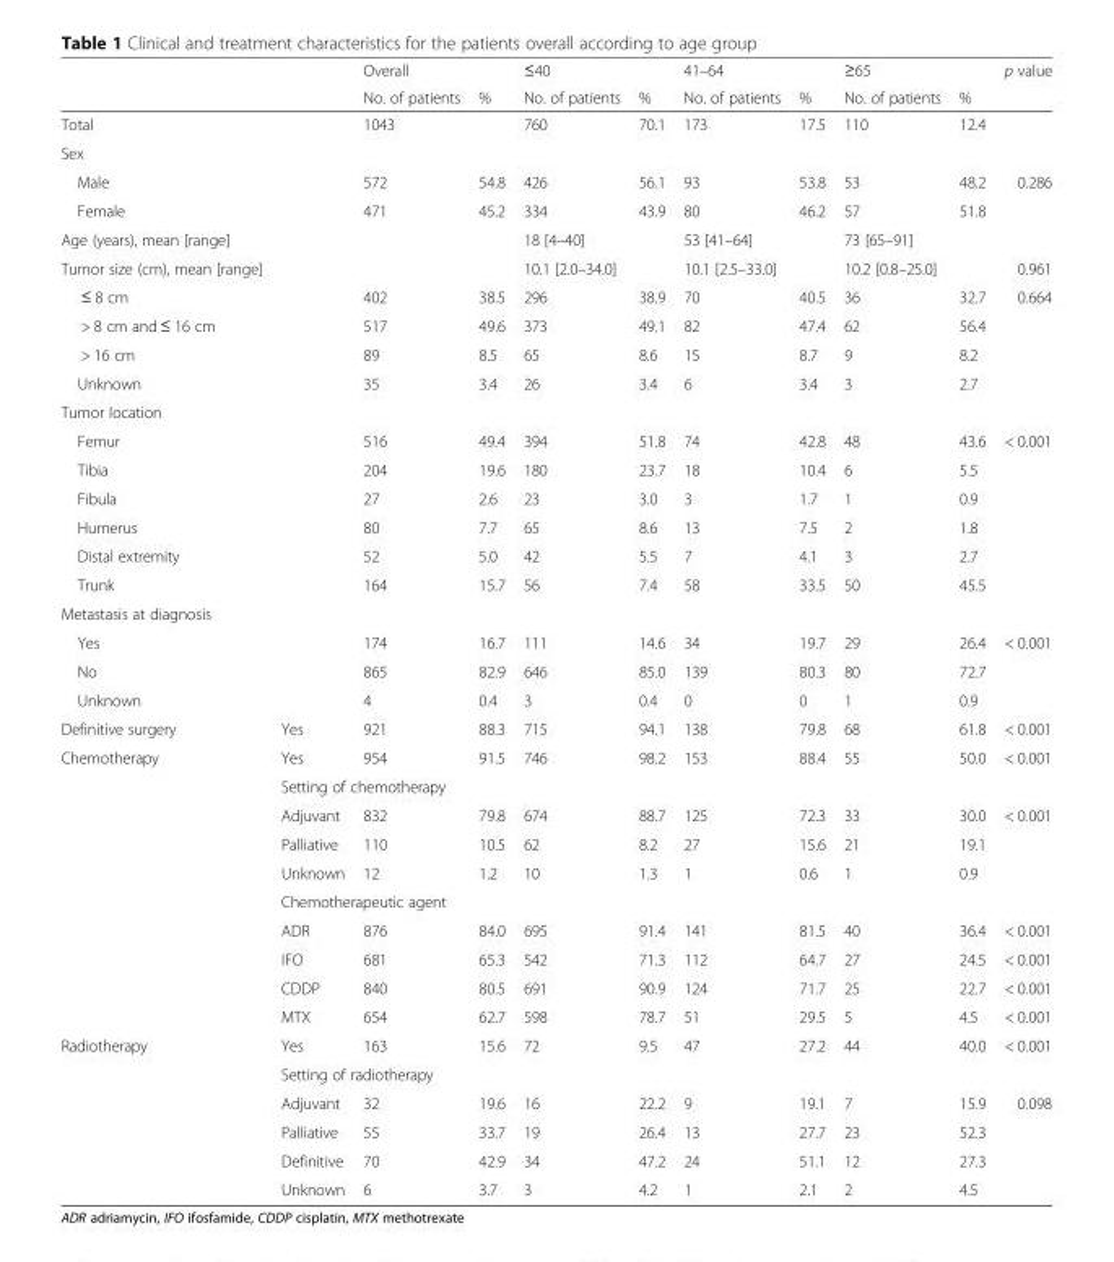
<table><thead><tr><td rowspan="2"></td><td rowspan="2"></td><td rowspan="2">Overall No. of patients</td><td rowspan="2">%</td><td rowspan="2">≤40 No. of patients</td><td rowspan="2">%</td><td rowspan="2">41–64 No. of patients</td><td rowspan="2">%</td><td rowspan="2">≥65 No. of patients</td><td rowspan="2">%</td><td rowspan="2">p value</td></tr><tr></tr></thead><tbody><tr><td>Total</td><td></td><td>1043</td><td></td><td>760</td><td>70.1</td><td>173</td><td>17.5</td><td>110</td><td>12.4</td><td></td></tr><tr><td colspan="11">Sex</td></tr><tr><td>Male</td><td></td><td>572</td><td>54.8</td><td>426</td><td>56.1</td><td>93</td><td>53.8</td><td>53</td><td>48.2</td><td>0.286</td></tr><tr><td>Female</td><td></td><td>471</td><td>45.2</td><td>334</td><td>43.9</td><td>80</td><td>46.2</td><td>57</td><td>51.8</td><td></td></tr><tr><td>Age (years), mean [range]</td><td></td><td></td><td></td><td>18 [4–40]</td><td></td><td>53 [41–64]</td><td></td><td>73 [65–91]</td><td></td><td></td></tr><tr><td>Tumor size (cm), mean [range]</td><td></td><td></td><td></td><td>10.1 [2.0–34.0]</td><td></td><td>10.1 [2.5–33.0]</td><td></td><td>10.2 [0.8–25.0]</td><td></td><td>0.961</td></tr><tr><td>≤ 8 cm</td><td></td><td>402</td><td>38.5</td><td>296</td><td>38.9</td><td>70</td><td>40.5</td><td>36</td><td>32.7</td><td>0.664</td></tr><tr><td>&gt; 8 cm and ≤ 16 cm</td><td></td><td>517</td><td>49.6</td><td>373</td><td>49.1</td><td>82</td><td>47.4</td><td>62</td><td>56.4</td><td></td></tr><tr><td>&gt; 16 cm</td><td></td><td>89</td><td>8.5</td><td>65</td><td>8.6</td><td>15</td><td>8.7</td><td>9</td><td>8.2</td><td></td></tr><tr><td>Unknown</td><td></td><td>35</td><td>3.4</td><td>26</td><td>3.4</td><td>6</td><td>3.4</td><td>3</td><td>2.7</td><td></td></tr><tr><td colspan="11">Tumor location</td></tr><tr><td>Femur</td><td></td><td>516</td><td>49.4</td><td>394</td><td>51.8</td><td>74</td><td>42.8</td><td>48</td><td>43.6</td><td>&lt; 0.001</td></tr><tr><td>Tibia</td><td></td><td>204</td><td>19.6</td><td>180</td><td>23.7</td><td>18</td><td>10.4</td><td>6</td><td>5.5</td><td></td></tr><tr><td>Fibula</td><td></td><td>27</td><td>2.6</td><td>23</td><td>3.0</td><td>3</td><td>1.7</td><td>1</td><td>0.9</td><td></td></tr><tr><td>Humerus</td><td></td><td>80</td><td>7.7</td><td>65</td><td>8.6</td><td>13</td><td>7.5</td><td>2</td><td>1.8</td><td></td></tr><tr><td>Distal extremity</td><td></td><td>52</td><td>5.0</td><td>42</td><td>5.5</td><td>7</td><td>4.1</td><td>3</td><td>2.7</td><td></td></tr><tr><td>Trunk</td><td></td><td>164</td><td>15.7</td><td>56</td><td>7.4</td><td>58</td><td>33.5</td><td>50</td><td>45.5</td><td></td></tr><tr><td colspan="11">Metastasis at diagnosis</td></tr><tr><td>Yes</td><td></td><td>174</td><td>16.7</td><td>111</td><td>14.6</td><td>34</td><td>19.7</td><td>29</td><td>26.4</td><td>&lt; 0.001</td></tr><tr><td>No</td><td></td><td>865</td><td>82.9</td><td>646</td><td>85.0</td><td>139</td><td>80.3</td><td>80</td><td>72.7</td><td></td></tr><tr><td>Unknown</td><td></td><td>4</td><td>0.4</td><td>3</td><td>0.4</td><td>0</td><td>0</td><td>1</td><td>0.9</td><td></td></tr><tr><td>Definitive surgery</td><td>Yes</td><td>921</td><td>88.3</td><td>715</td><td>94.1</td><td>138</td><td>79.8</td><td>68</td><td>61.8</td><td>&lt; 0.001</td></tr><tr><td rowspan="10">Chemotherapy</td><td>Yes</td><td>954</td><td>91.5</td><td>746</td><td>98.2</td><td>153</td><td>88.4</td><td>55</td><td>50.0</td><td>&lt; 0.001</td></tr><tr><td colspan="10">Setting of chemotherapy</td></tr><tr><td>Adjuvant</td><td>832</td><td>79.8</td><td>674</td><td>88.7</td><td>125</td><td>72.3</td><td>33</td><td>30.0</td><td>&lt; 0.001</td></tr><tr><td>Palliative</td><td>110</td><td>10.5</td><td>62</td><td>8.2</td><td>27</td><td>15.6</td><td>21</td><td>19.1</td><td></td></tr><tr><td>Unknown</td><td>12</td><td>1.2</td><td>10</td><td>1.3</td><td>1</td><td>0.6</td><td>1</td><td>0.9</td><td></td></tr><tr><td colspan="10">Chemotherapeutic agent</td></tr><tr><td>ADR</td><td>876</td><td>84.0</td><td>695</td><td>91.4</td><td>141</td><td>81.5</td><td>40</td><td>36.4</td><td>&lt; 0.001</td></tr><tr><td>IFO</td><td>681</td><td>65.3</td><td>542</td><td>71.3</td><td>112</td><td>64.7</td><td>27</td><td>24.5</td><td>&lt; 0.001</td></tr><tr><td>CDDP</td><td>840</td><td>80.5</td><td>691</td><td>90.9</td><td>124</td><td>71.7</td><td>25</td><td>22.7</td><td>&lt; 0.001</td></tr><tr><td>MTX</td><td>654</td><td>62.7</td><td>598</td><td>78.7</td><td>51</td><td>29.5</td><td>5</td><td>4.5</td><td>&lt; 0.001</td></tr><tr><td rowspan="6">Radiotherapy</td><td>Yes</td><td>163</td><td>15.6</td><td>72</td><td>9.5</td><td>47</td><td>27.2</td><td>44</td><td>40.0</td><td>&lt; 0.001</td></tr><tr><td colspan="10">Setting of radiotherapy</td></tr><tr><td>Adjuvant</td><td>32</td><td>19.6</td><td>16</td><td>22.2</td><td>9</td><td>19.1</td><td>7</td><td>15.9</td><td>0.098</td></tr><tr><td>Palliative</td><td>55</td><td>33.7</td><td>19</td><td>26.4</td><td>13</td><td>27.7</td><td>23</td><td>52.3</td><td></td></tr><tr><td>Definitive</td><td>70</td><td>42.9</td><td>34</td><td>47.2</td><td>24</td><td>51.1</td><td>12</td><td>27.3</td><td></td></tr><tr><td>Unknown</td><td>6</td><td>3.7</td><td>3</td><td>4.2</td><td>1</td><td>2.1</td><td>2</td><td>4.5</td><td></td></tr></tbody></table>